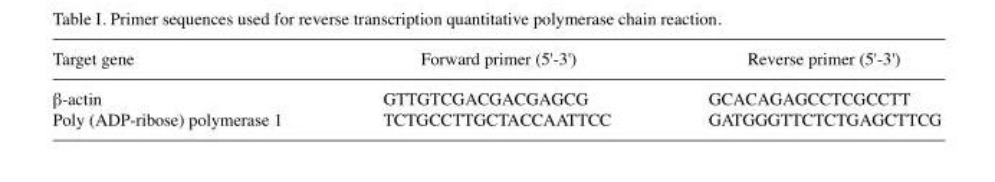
<table><thead><tr><td>Target gene</td><td>Forward primer (5&#x27;-3&#x27;)</td><td>Reverse primer (5&#x27;-3&#x27;)</td></tr></thead><tbody><tr><td>β-actin</td><td>GTTGTCGACGACGAGCG</td><td>GCACAGAGCCTCGCCTT</td></tr><tr><td>Poly (ADP-ribose) polymerase 1</td><td>TCTGCCTTGCTACCAATTCC</td><td>GATGGGTTCTCTGAGCTTCG</td></tr></tbody></table>